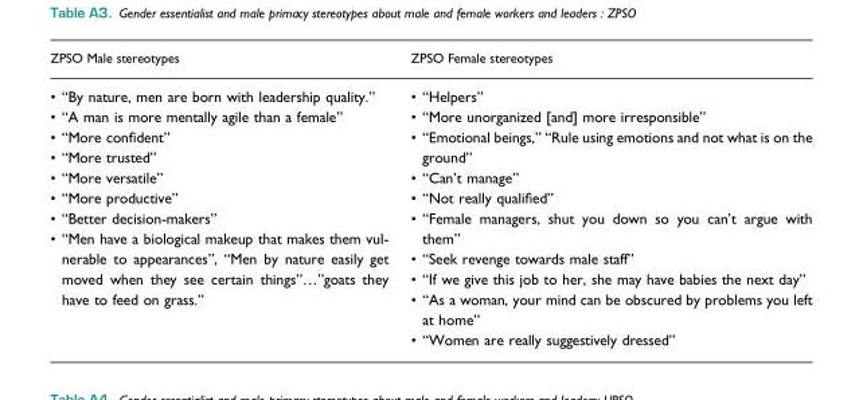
<table><thead><tr><td>ZPSO Male stereotypes</td><td>ZPSO Female stereotypes</td></tr></thead><tbody><tr><td>• “By nature, men are born with leadership quality.” • “A man is more mentally agile than a female” • “More confident” • “More trusted” • “More versatile” • “More productive” • “Better decision-makers” • “Men have a biological makeup that makes them vul- nerable to appearances”, “Men by nature easily get moved when they see certain things”…”goats they have to feed on grass.”</td><td>• “Helpers” • “More unorganized [and] more irresponsible” • “Emotional beings,” “Rule using emotions and not what is on the ground” • “Can’t manage” • “Not really qualified” • “Female managers, shut you down so you can’t argue with them” • “Seek revenge towards male staff” • “If we give this job to her, she may have babies the next day” • “As a woman, your mind can be obscured by problems you left at home” • “Women are really suggestively dressed”</td></tr></tbody></table>